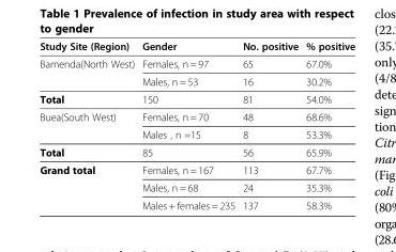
<table><thead><tr><td>Study Site (Region)</td><td>Gender</td><td>No. positive</td><td>% positive</td></tr></thead><tbody><tr><td rowspan="2">Bamenda(North West)</td><td>Females, n = 97</td><td>65</td><td>67.0%</td></tr><tr><td>Males, n = 53</td><td>16</td><td>30.2%</td></tr><tr><td>Total</td><td>150</td><td>81</td><td>54.0%</td></tr><tr><td rowspan="2">Buea(South West)</td><td>Females, n = 70</td><td>48</td><td>68.6%</td></tr><tr><td>Males , n =15</td><td>8</td><td>53.3%</td></tr><tr><td>Total</td><td>85</td><td>56</td><td>65.9%</td></tr><tr><td rowspan="3">Grand total</td><td>Females, n = 167</td><td>113</td><td>67.7%</td></tr><tr><td>Males, n = 68</td><td>24</td><td>35.3%</td></tr><tr><td>Males + females = 235</td><td>137</td><td>58.3%</td></tr></tbody></table>